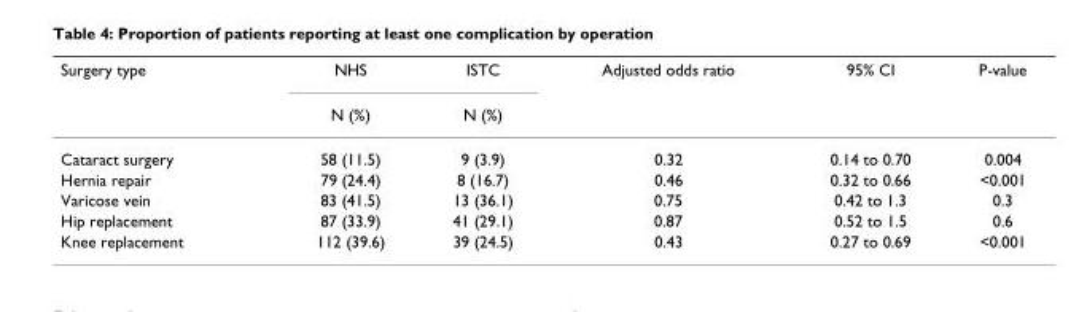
<table><thead><tr><td rowspan="2">Surgery type</td><td rowspan="2">NHS N (%)</td><td rowspan="2">ISTC N (%)</td><td rowspan="2">Adjusted odds ratio</td><td rowspan="2">95% CI</td><td rowspan="2">P-value</td></tr><tr></tr></thead><tbody><tr><td>Cataract surgery</td><td>58 (11.5)</td><td>9 (3.9)</td><td>0.32</td><td>0.14 to 0.70</td><td>0.004</td></tr><tr><td>Hernia repair</td><td>79 (24.4)</td><td>8 (16.7)</td><td>0.46</td><td>0.32 to 0.66</td><td>&lt;0.001</td></tr><tr><td>Varicose vein</td><td>83 (41.5)</td><td>13 (36.1)</td><td>0.75</td><td>0.42 to 1.3</td><td>0.3</td></tr><tr><td>Hip replacement</td><td>87 (33.9)</td><td>41 (29.1)</td><td>0.87</td><td>0.52 to 1.5</td><td>0.6</td></tr><tr><td>Knee replacement</td><td>112 (39.6)</td><td>39 (24.5)</td><td>0.43</td><td>0.27 to 0.69</td><td>&lt;0.001</td></tr></tbody></table>